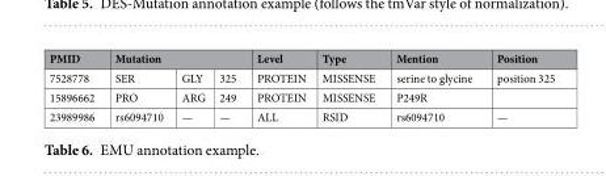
<table><thead><tr><td rowspan="2">PMID 7528778</td><td colspan="3">Mutation</td><td rowspan="2">Level PROTEIN</td><td rowspan="2">Type MISSENSE</td><td rowspan="2">Mention serine to glycine</td><td rowspan="2">Position position 325</td></tr><tr><td>SER</td><td>GLY</td><td>325</td></tr></thead><tbody><tr><td>15896662</td><td>PRO</td><td>ARG</td><td>249</td><td>PROTEIN</td><td>MISSENSE</td><td>P249R</td><td></td></tr><tr><td>23989986</td><td>rs6094710</td><td>—</td><td>—</td><td>ALL</td><td>RSID</td><td>rs6094710</td><td>—</td></tr></tbody></table>